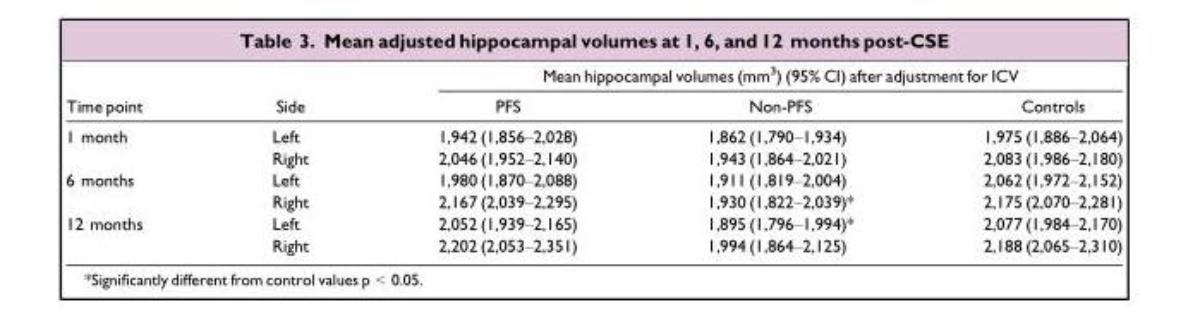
<table><thead><tr><td rowspan="2">Time point</td><td rowspan="2">Side</td><td colspan="3">Mean hippocampal volumes (mm<sup>3</sup>) (95% CI) after adjustment for ICV</td></tr><tr><td>PFS</td><td>Non-PFS</td><td>Controls</td></tr></thead><tbody><tr><td rowspan="2">1 month</td><td>Left</td><td>1,942 (1,856–2,028)</td><td>1,862 (1,790–1,934)</td><td>1,975 (1,886–2,064)</td></tr><tr><td>Right</td><td>2,046 (1,952–2,140)</td><td>1,943 (1,864–2,021)</td><td>2,083 (1,986–2,180)</td></tr><tr><td rowspan="2">6 months</td><td>Left</td><td>1,980 (1,870–2,088)</td><td>1,911 (1,819–2,004)</td><td>2,062 (1,972–2,152)</td></tr><tr><td>Right</td><td>2,167 (2,039–2,295)</td><td>1,930 (1,822–2,039)*</td><td>2,175 (2,070–2,281)</td></tr><tr><td rowspan="2">12 months</td><td>Left</td><td>2,052 (1,939–2,165)</td><td>1,895 (1,796–1,994)*</td><td>2,077 (1,984–2,170)</td></tr><tr><td>Right</td><td>2,202 (2,053–2,351)</td><td>1,994 (1,864–2,125)</td><td>2,188 (2,065–2,310)</td></tr></tbody></table>